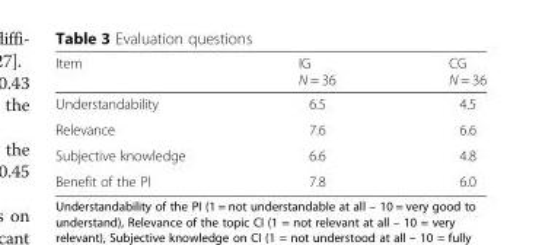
<table><thead><tr><td>Item</td><td>IG N = 36</td><td>CG N = 36</td></tr></thead><tbody><tr><td>Understandability</td><td>6.5</td><td>4.5</td></tr><tr><td>Relevance</td><td>7.6</td><td>6.6</td></tr><tr><td>Subjective knowledge</td><td>6.6</td><td>4.8</td></tr><tr><td>Benefit of the PI</td><td>7.8</td><td>6.0</td></tr></tbody></table>